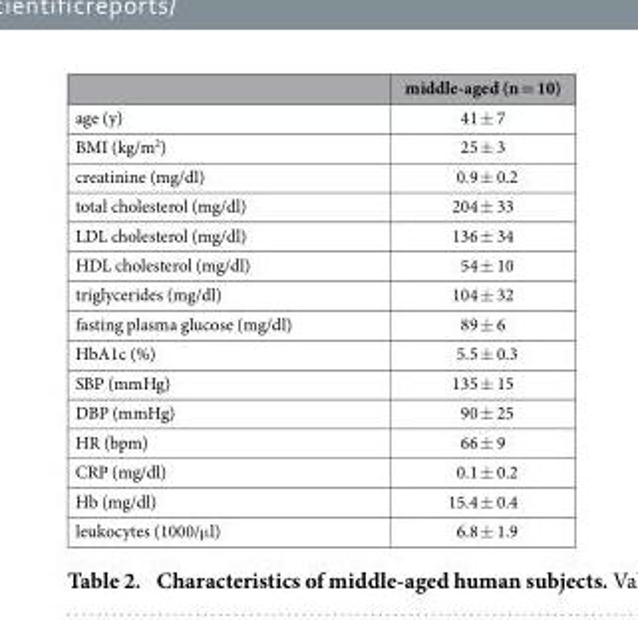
<table><thead><tr><td></td><td>middle-aged (n = 10)</td></tr></thead><tbody><tr><td>age (y)</td><td>41 ± 7</td></tr><tr><td>BMI (kg/m<sup>2</sup>)</td><td>25 ± 3</td></tr><tr><td>creatinine (mg/dl)</td><td>0.9 ± 0.2</td></tr><tr><td>total cholesterol (mg/dl)</td><td>204 ± 33</td></tr><tr><td>LDL cholesterol (mg/dl)</td><td>136 ± 34</td></tr><tr><td>HDL cholesterol (mg/dl)</td><td>54 ± 10</td></tr><tr><td>triglycerides (mg/dl)</td><td>104 ± 32</td></tr><tr><td>fasting plasma glucose (mg/dl)</td><td>89 ± 6</td></tr><tr><td>HbA1c (%)</td><td>5.5 ± 0.3</td></tr><tr><td>SBP (mmHg)</td><td>135 ± 15</td></tr><tr><td>DBP (mmHg)</td><td>90 ± 25</td></tr><tr><td>HR (bpm)</td><td>66 ± 9</td></tr><tr><td>CRP (mg/dl)</td><td>0.1 ± 0.2</td></tr><tr><td>Hb (mg/dl)</td><td>15.4 ± 0.4</td></tr><tr><td>leukocytes (1000/μ l)</td><td>6.8 ± 1.9</td></tr></tbody></table>